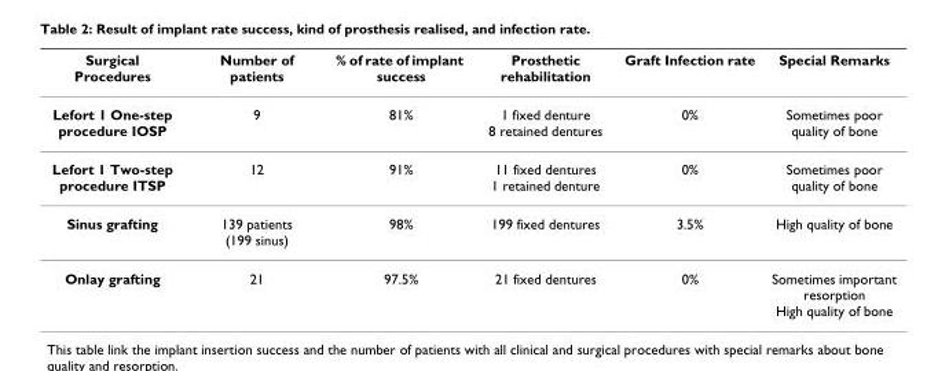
<table><thead><tr><td>Surgical Procedures</td><td>Number of patients</td><td>% of rate of implant success</td><td>Prosthetic rehabilitation</td><td>Graft Infection rate</td><td>Special Remarks</td></tr></thead><tbody><tr><td>Lefort 1 One-step procedure IOSP</td><td>9</td><td>81%</td><td>1 fixed denture 8 retained dentures</td><td>0%</td><td>Sometimes poor quality of bone</td></tr><tr><td>Lefort 1 Two-step procedure ITSP</td><td>12</td><td>91%</td><td>11 fixed dentures 1 retained denture</td><td>0%</td><td>Sometimes poor quality of bone</td></tr><tr><td>Sinus grafting</td><td>139 patients (199 sinus)</td><td>98%</td><td>199 fixed dentures</td><td>3.5%</td><td>High quality of bone</td></tr><tr><td>Onlay grafting</td><td>21</td><td>97.5%</td><td>21 fixed dentures</td><td>0%</td><td>Sometimes important resorption High quality of bone</td></tr></tbody></table>